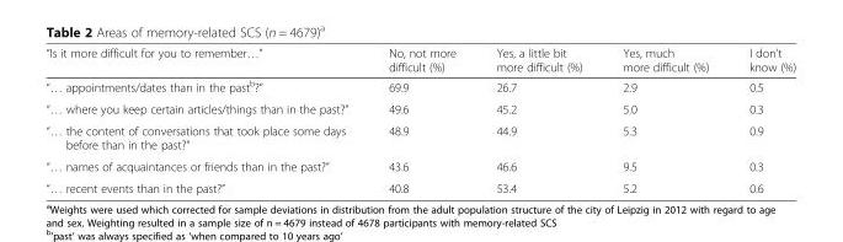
<table><thead><tr><td>“Is it more difficult for you to remember…”</td><td>No, not more difficult (%)</td><td>Yes, a little bit more difficult (%)</td><td>Yes, much more difficult (%)</td><td>I don’t know (%)</td></tr></thead><tbody><tr><td>“… appointments/dates than in the past<sup>b</sup>?”</td><td>69.9</td><td>26.7</td><td>2.9</td><td>0.5</td></tr><tr><td>“… where you keep certain articles/things than in the past?”</td><td>49.6</td><td>45.2</td><td>5.0</td><td>0.3</td></tr><tr><td>“… the content of conversations that took place some days before than in the past?”</td><td>48.9</td><td>44.9</td><td>5.3</td><td>0.9</td></tr><tr><td>“… names of acquaintances or friends than in the past?”</td><td>43.6</td><td>46.6</td><td>9.5</td><td>0.3</td></tr><tr><td>“… recent events than in the past?”</td><td>40.8</td><td>53.4</td><td>5.2</td><td>0.6</td></tr></tbody></table>